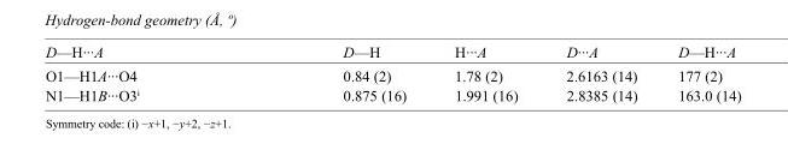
<table><tbody><tr><td>D—H···A</td><td>D—H</td><td>H···A</td><td>D···A</td><td>D—H···A</td></tr><tr><td>O1—H1A···O4</td><td>0.84 (2)</td><td>1.78 (2)</td><td>2.6163 (14)</td><td>177 (2)</td></tr><tr><td>N1—H1B···O3<sup>i</sup></td><td>0.875 (16)</td><td>1.991 (16)</td><td>2.8385 (14)</td><td>163.0 (14)</td></tr></tbody></table>